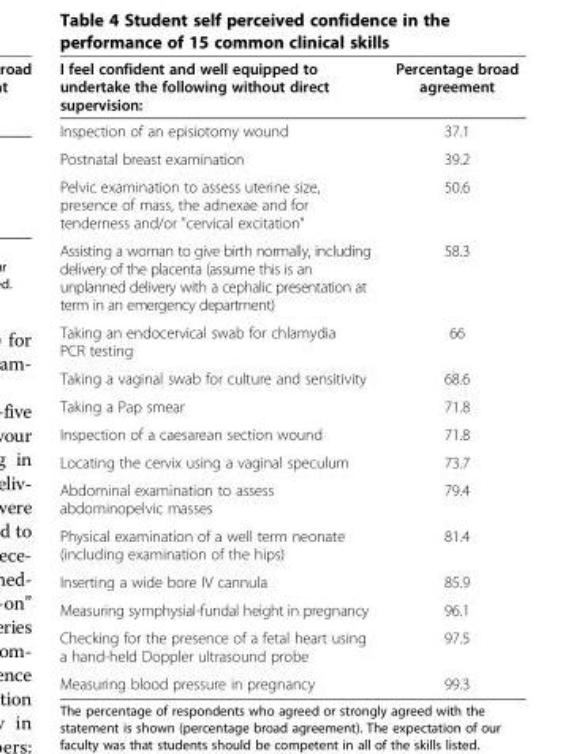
<table><thead><tr><td>I feel confident and well equipped to undertake the following without direct supervision:</td><td>Percentage broad agreement</td></tr></thead><tbody><tr><td>Inspection of an episiotomy wound</td><td>37.1</td></tr><tr><td>Postnatal breast examination</td><td>39.2</td></tr><tr><td>Pelvic examination to assess uterine size, presence of mass, the adnexae and for tenderness and/or &quot;cervical excitation&quot;</td><td>50.6</td></tr><tr><td>Assisting a woman to give birth normally, including delivery of the placenta (assume this is an unplanned delivery with a cephalic presentation at term in an emergency department)</td><td>58.3</td></tr><tr><td>Taking an endocervical swab for chlamydia PCR testing</td><td>66</td></tr><tr><td>Taking a vaginal swab for culture and sensitivity</td><td>68.6</td></tr><tr><td>Taking a Pap smear</td><td>71.8</td></tr><tr><td>Inspection of a caesarean section wound</td><td>71.8</td></tr><tr><td>Locating the cervix using a vaginal speculum</td><td>73.7</td></tr><tr><td>Abdominal examination to assess abdominopelvic masses</td><td>79.4</td></tr><tr><td>Physical examination of a well term neonate (including examination of the hips)</td><td>81.4</td></tr><tr><td>Inserting a wide bore IV cannula</td><td>85.9</td></tr><tr><td>Measuring symphysial-fundal height in pregnancy</td><td>96.1</td></tr><tr><td>Checking for the presence of a fetal heart using a hand-held Doppler ultrasound probe</td><td>97.5</td></tr><tr><td>Measuring blood pressure in pregnancy</td><td>99.3</td></tr></tbody></table>